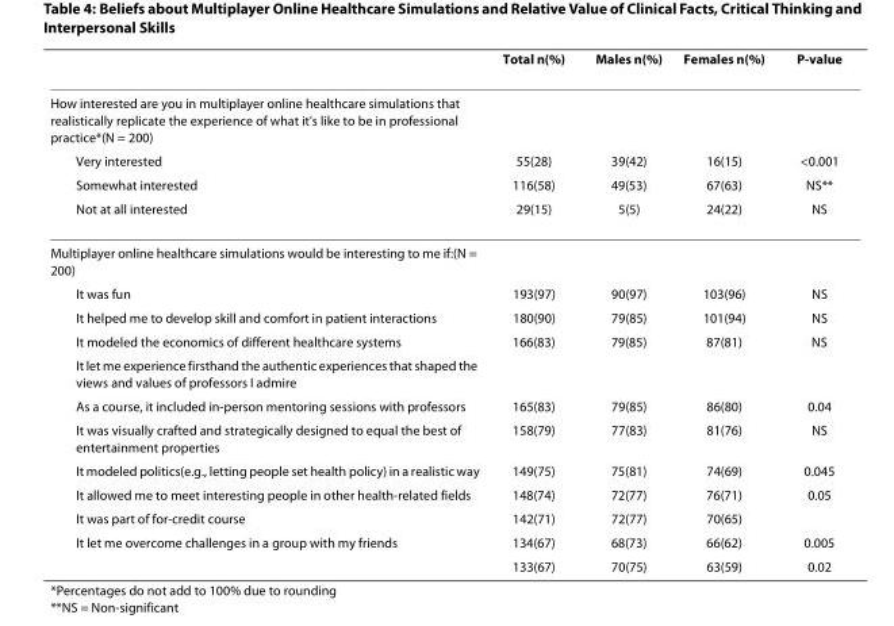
<table><thead><tr><td></td><td>Total n(%)</td><td>Males n(%)</td><td>Females n(%)</td><td>P-value</td></tr></thead><tbody><tr><td colspan="5">How interested are you in multiplayer online healthcare simulations that realistically replicate the experience of what it&#x27;s like to be in professional practice*(N = 200)</td></tr><tr><td>Very interested</td><td>55(28)</td><td>39(42)</td><td>16(15)</td><td>&lt;0.001</td></tr><tr><td>Somewhat interested</td><td>116(58)</td><td>49(53)</td><td>67(63)</td><td>NS**</td></tr><tr><td>Not at all interested</td><td>29(15)</td><td>5(5)</td><td>24(22)</td><td>NS</td></tr><tr><td colspan="5">Multiplayer online healthcare simulations would be interesting to me if:(N = 200)</td></tr><tr><td>It was fun</td><td>193(97)</td><td>90(97)</td><td>103(96)</td><td>NS</td></tr><tr><td>It helped me to develop skill and comfort in patient interactions</td><td>180(90)</td><td>79(85)</td><td>101(94)</td><td>NS</td></tr><tr><td>It modeled the economics of different healthcare systems</td><td>166(83)</td><td>79(85)</td><td>87(81)</td><td>NS</td></tr><tr><td colspan="5">It let me experience firsthand the authentic experiences that shaped the views and values of professors I admire</td></tr><tr><td>As a course, it included in-person mentoring sessions with professors</td><td>165(83)</td><td>79(85)</td><td>86(80)</td><td>0.04</td></tr><tr><td>It was visually crafted and strategically designed to equal the best of entertainment properties</td><td>158(79)</td><td>77(83)</td><td>81(76)</td><td>NS</td></tr><tr><td>It modeled politics(e.g., letting people set health policy) in a realistic way</td><td>149(75)</td><td>75(81)</td><td>74(69)</td><td>0.045</td></tr><tr><td>It allowed me to meet interesting people in other health-related fields</td><td>148(74)</td><td>72(77)</td><td>76(71)</td><td>0.05</td></tr><tr><td>It was part of for-credit course</td><td>142(71)</td><td>72(77)</td><td>70(65)</td><td></td></tr><tr><td rowspan="2">It let me overcome challenges in a group with my friends</td><td>134(67)</td><td>68(73)</td><td>66(62)</td><td>0.005</td></tr><tr><td>133(67)</td><td>70(75)</td><td>63(59)</td><td>0.02</td></tr></tbody></table>